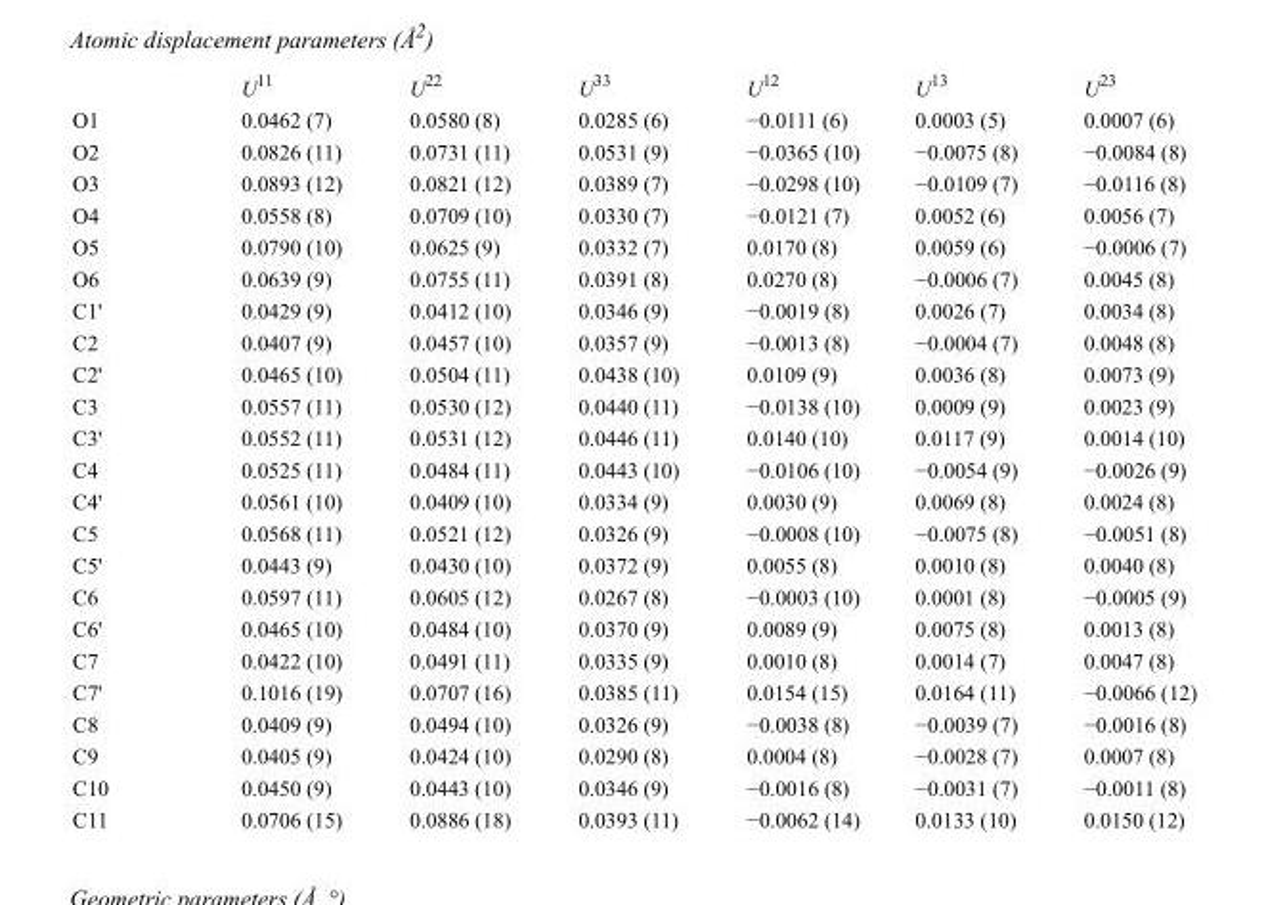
<table><thead><tr><td></td><td>U<sup>11</sup></td><td>U<sup>22</sup></td><td>U<sup>33</sup></td><td>U<sup>12</sup></td><td>U<sup>13</sup></td><td>U<sup>23</sup></td></tr></thead><tbody><tr><td>O1</td><td>0.0462 (7)</td><td>0.0580 (8)</td><td>0.0285 (6)</td><td>−0.0111 (6)</td><td>0.0003 (5)</td><td>0.0007 (6)</td></tr><tr><td>O2</td><td>0.0826 (11)</td><td>0.0731 (11)</td><td>0.0531 (9)</td><td>−0.0365 (10)</td><td>−0.0075 (8)</td><td>−0.0084 (8)</td></tr><tr><td>O3</td><td>0.0893 (12)</td><td>0.0821 (12)</td><td>0.0389 (7)</td><td>−0.0298 (10)</td><td>−0.0109 (7)</td><td>−0.0116 (8)</td></tr><tr><td>O4</td><td>0.0558 (8)</td><td>0.0709 (10)</td><td>0.0330 (7)</td><td>−0.0121 (7)</td><td>0.0052 (6)</td><td>0.0056 (7)</td></tr><tr><td>O5</td><td>0.0790 (10)</td><td>0.0625 (9)</td><td>0.0332 (7)</td><td>0.0170 (8)</td><td>0.0059 (6)</td><td>−0.0006 (7)</td></tr><tr><td>O6</td><td>0.0639 (9)</td><td>0.0755 (11)</td><td>0.0391 (8)</td><td>0.0270 (8)</td><td>−0.0006 (7)</td><td>0.0045 (8)</td></tr><tr><td>C1&#x27;</td><td>0.0429 (9)</td><td>0.0412 (10)</td><td>0.0346 (9)</td><td>−0.0019 (8)</td><td>0.0026 (7)</td><td>0.0034 (8)</td></tr><tr><td>C2</td><td>0.0407 (9)</td><td>0.0457 (10)</td><td>0.0357 (9)</td><td>−0.0013 (8)</td><td>−0.0004 (7)</td><td>0.0048 (8)</td></tr><tr><td>C2&#x27;</td><td>0.0465 (10)</td><td>0.0504 (11)</td><td>0.0438 (10)</td><td>0.0109 (9)</td><td>0.0036 (8)</td><td>0.0073 (9)</td></tr><tr><td>C3</td><td>0.0557 (11)</td><td>0.0530 (12)</td><td>0.0440 (11)</td><td>−0.0138 (10)</td><td>0.0009 (9)</td><td>0.0023 (9)</td></tr><tr><td>C3&#x27;</td><td>0.0552 (11)</td><td>0.0531 (12)</td><td>0.0446 (11)</td><td>0.0140 (10)</td><td>0.0117 (9)</td><td>0.0014 (10)</td></tr><tr><td>C4</td><td>0.0525 (11)</td><td>0.0484 (11)</td><td>0.0443 (10)</td><td>−0.0106 (10)</td><td>−0.0054 (9)</td><td>−0.0026 (9)</td></tr><tr><td>C4&#x27;</td><td>0.0561 (10)</td><td>0.0409 (10)</td><td>0.0334 (9)</td><td>0.0030 (9)</td><td>0.0069 (8)</td><td>0.0024 (8)</td></tr><tr><td>C5</td><td>0.0568 (11)</td><td>0.0521 (12)</td><td>0.0326 (9)</td><td>−0.0008 (10)</td><td>−0.0075 (8)</td><td>−0.0051 (8)</td></tr><tr><td>C5&#x27;</td><td>0.0443 (9)</td><td>0.0430 (10)</td><td>0.0372 (9)</td><td>0.0055 (8)</td><td>0.0010 (8)</td><td>0.0040 (8)</td></tr><tr><td>C6</td><td>0.0597 (11)</td><td>0.0605 (12)</td><td>0.0267 (8)</td><td>−0.0003 (10)</td><td>0.0001 (8)</td><td>−0.0005 (9)</td></tr><tr><td>C6&#x27;</td><td>0.0465 (10)</td><td>0.0484 (10)</td><td>0.0370 (9)</td><td>0.0089 (9)</td><td>0.0075 (8)</td><td>0.0013 (8)</td></tr><tr><td>C7</td><td>0.0422 (10)</td><td>0.0491 (11)</td><td>0.0335 (9)</td><td>0.0010 (8)</td><td>0.0014 (7)</td><td>0.0047 (8)</td></tr><tr><td>C7&#x27;</td><td>0.1016 (19)</td><td>0.0707 (16)</td><td>0.0385 (11)</td><td>0.0154 (15)</td><td>0.0164 (11)</td><td>−0.0066 (12)</td></tr><tr><td>C8</td><td>0.0409 (9)</td><td>0.0494 (10)</td><td>0.0326 (9)</td><td>−0.0038 (8)</td><td>−0.0039 (7)</td><td>−0.0016 (8)</td></tr><tr><td>C9</td><td>0.0405 (9)</td><td>0.0424 (10)</td><td>0.0290 (8)</td><td>0.0004 (8)</td><td>−0.0028 (7)</td><td>0.0007 (8)</td></tr><tr><td>C10</td><td>0.0450 (9)</td><td>0.0443 (10)</td><td>0.0346 (9)</td><td>−0.0016 (8)</td><td>−0.0031 (7)</td><td>−0.0011 (8)</td></tr><tr><td>C11</td><td>0.0706 (15)</td><td>0.0886 (18)</td><td>0.0393 (11)</td><td>−0.0062 (14)</td><td>0.0133 (10)</td><td>0.0150 (12)</td></tr></tbody></table>